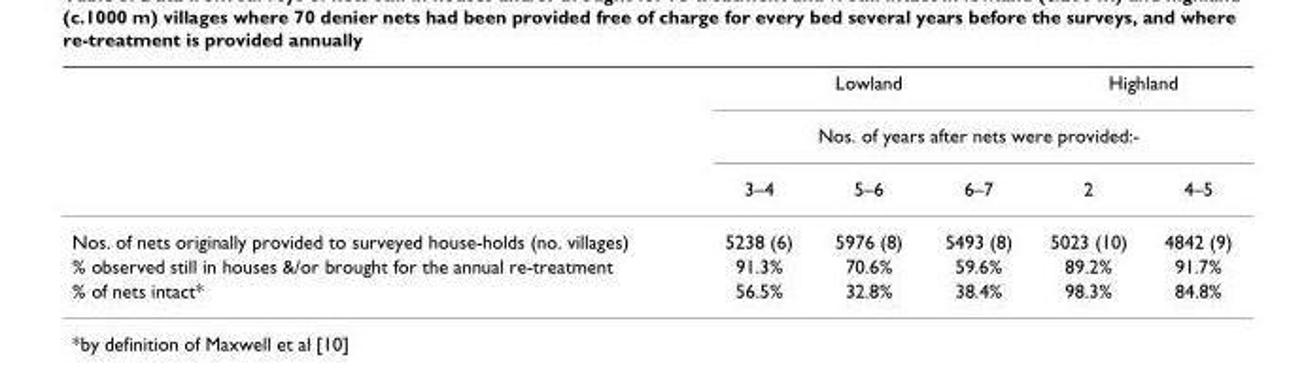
<table><thead><tr><td rowspan="3"></td><td colspan="3">Lowland</td><td colspan="2">Highland</td></tr><tr><td colspan="5">Nos. of years after nets were provided:-</td></tr><tr><td>3–4</td><td>5–6</td><td>6–7</td><td>2</td><td>4–5</td></tr></thead><tbody><tr><td>Nos. of nets originally provided to surveyed house-holds (no. villages)</td><td>5238 (6)</td><td>5976 (8)</td><td>5493 (8)</td><td>5023 (10)</td><td>4842 (9)</td></tr><tr><td>% observed still in houses &amp;/or brought for the annual re-treatment</td><td>91.3%</td><td>70.6%</td><td>59.6%</td><td>89.2%</td><td>91.7%</td></tr><tr><td>% of nets intact*</td><td>56.5%</td><td>32.8%</td><td>38.4%</td><td>98.3%</td><td>84.8%</td></tr></tbody></table>